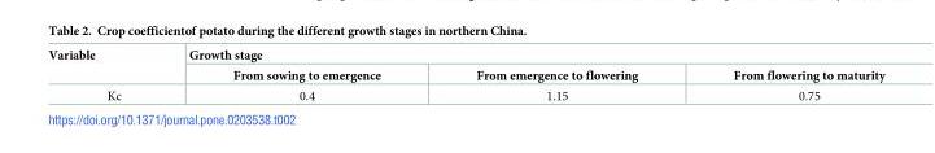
<table><thead><tr><td rowspan="2">Variable</td><td colspan="3">Growth stage</td></tr><tr><td>From sowing to emergence</td><td>From emergence to flowering</td><td>From flowering to maturity</td></tr></thead><tbody><tr><td>Kc</td><td>0.4</td><td>1.15</td><td>0.75</td></tr></tbody></table>